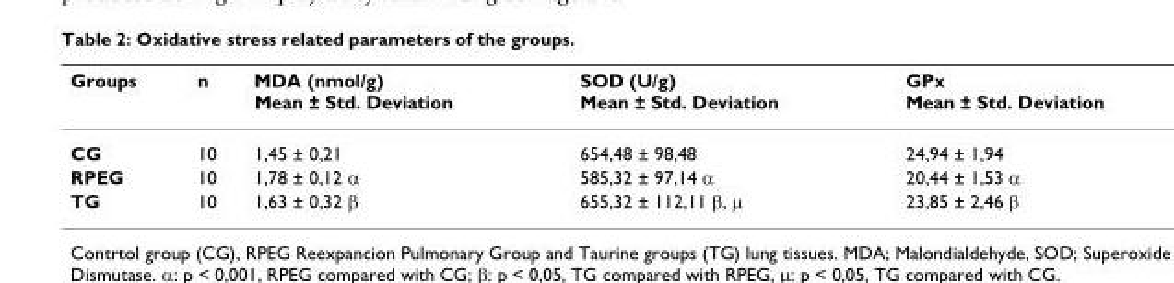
<table><thead><tr><td>Groups</td><td>n</td><td>MDA (nmol/g) Mean ± Std. Deviation</td><td>SOD (U/g) Mean ± Std. Deviation</td><td>GPx Mean ± Std. Deviation</td></tr></thead><tbody><tr><td>CG</td><td>10</td><td>1,45 ± 0,21</td><td>654,48 ± 98,48</td><td>24,94 ± 1,94</td></tr><tr><td>RPEG</td><td>10</td><td>1,78 ± 0,12 α</td><td>585,32 ± 97,14 α</td><td>20,44 ± 1,53 α</td></tr><tr><td>TG</td><td>10</td><td>1,63 ± 0,32 β</td><td>655,32 ± 112,11 β, μ</td><td>23,85 ± 2,46 β</td></tr></tbody></table>